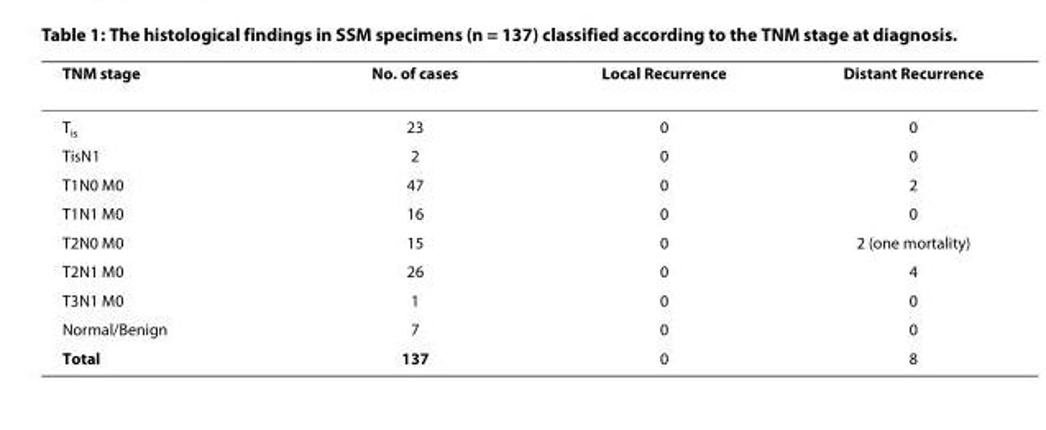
<table><thead><tr><td>TNM stage</td><td>No. of cases</td><td>Local Recurrence</td><td>Distant Recurrence</td></tr></thead><tbody><tr><td>T<sub>is</sub></td><td>23</td><td>0</td><td>0</td></tr><tr><td>TisN1</td><td>2</td><td>0</td><td>0</td></tr><tr><td>T1N0 M0</td><td>47</td><td>0</td><td>2</td></tr><tr><td>T1N1 M0</td><td>16</td><td>0</td><td>0</td></tr><tr><td>T2N0 M0</td><td>15</td><td>0</td><td>2 (one mortality)</td></tr><tr><td>T2N1 M0</td><td>26</td><td>0</td><td>4</td></tr><tr><td>T3N1 M0</td><td>1</td><td>0</td><td>0</td></tr><tr><td>Normal/Benign</td><td>7</td><td>0</td><td>0</td></tr><tr><td>Total</td><td>137</td><td>0</td><td>8</td></tr></tbody></table>